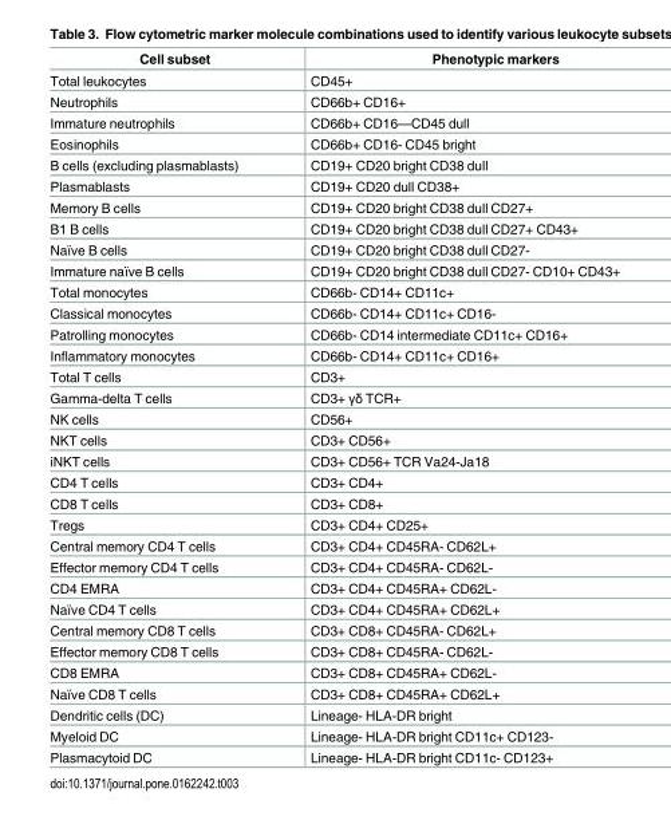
<table><thead><tr><td>Cell subset</td><td>Phenotypic markers</td></tr></thead><tbody><tr><td>Total leukocytes</td><td>CD45+</td></tr><tr><td>Neutrophils</td><td>CD66b+ CD16+</td></tr><tr><td>Immature neutrophils</td><td>CD66b+ CD16—CD45 dull</td></tr><tr><td>Eosinophils</td><td>CD66b+ CD16- CD45 bright</td></tr><tr><td>B cells (excluding plasmablasts)</td><td>CD19+ CD20 bright CD38 dull</td></tr><tr><td>Plasmablasts</td><td>CD19+ CD20 dull CD38+</td></tr><tr><td>Memory B cells</td><td>CD19+ CD20 bright CD38 dull CD27+</td></tr><tr><td>B1 B cells</td><td>CD19+ CD20 bright CD38 dull CD27+ CD43+</td></tr><tr><td>Naïve B cells</td><td>CD19+ CD20 bright CD38 dull CD27-</td></tr><tr><td>Immature naïve B cells</td><td>CD19+ CD20 bright CD38 dull CD27- CD10+ CD43+</td></tr><tr><td>Total monocytes</td><td>CD66b- CD14+ CD11c+</td></tr><tr><td>Classical monocytes</td><td>CD66b- CD14+ CD11c+ CD16-</td></tr><tr><td>Patrolling monocytes</td><td>CD66b- CD14 intermediate CD11c+ CD16+</td></tr><tr><td>Inflammatory monocytes</td><td>CD66b- CD14+ CD11c+ CD16+</td></tr><tr><td>Total T cells</td><td>CD3+</td></tr><tr><td>Gamma-delta T cells</td><td>CD3+ γδ TCR+</td></tr><tr><td>NK cells</td><td>CD56+</td></tr><tr><td>NKT cells</td><td>CD3+ CD56+</td></tr><tr><td>iNKT cells</td><td>CD3+ CD56+ TCR Va24-Ja18</td></tr><tr><td>CD4 T cells</td><td>CD3+ CD4+</td></tr><tr><td>CD8 T cells</td><td>CD3+ CD8+</td></tr><tr><td>Tregs</td><td>CD3+ CD4+ CD25+</td></tr><tr><td>Central memory CD4 T cells</td><td>CD3+ CD4+ CD45RA- CD62L+</td></tr><tr><td>Effector memory CD4 T cells</td><td>CD3+ CD4+ CD45RA- CD62L-</td></tr><tr><td>CD4 EMRA</td><td>CD3+ CD4+ CD45RA+ CD62L-</td></tr><tr><td>Naïve CD4 T cells</td><td>CD3+ CD4+ CD45RA+ CD62L+</td></tr><tr><td>Central memory CD8 T cells</td><td>CD3+ CD8+ CD45RA- CD62L+</td></tr><tr><td>Effector memory CD8 T cells</td><td>CD3+ CD8+ CD45RA- CD62L-</td></tr><tr><td>CD8 EMRA</td><td>CD3+ CD8+ CD45RA+ CD62L-</td></tr><tr><td>Naïve CD8 T cells</td><td>CD3+ CD8+ CD45RA+ CD62L+</td></tr><tr><td>Dendritic cells (DC)</td><td>Lineage- HLA-DR bright</td></tr><tr><td>Myeloid DC</td><td>Lineage- HLA-DR bright CD11c+ CD123-</td></tr><tr><td>Plasmacytoid DC</td><td>Lineage- HLA-DR bright CD11c- CD123+</td></tr></tbody></table>